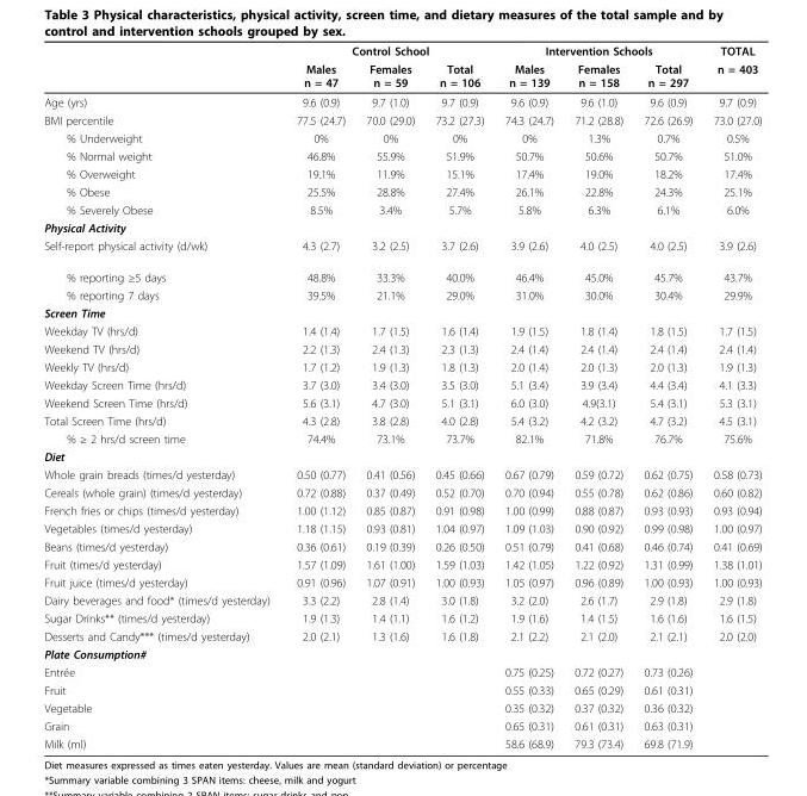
<table><thead><tr><td rowspan="2"></td><td colspan="3">Control School</td><td colspan="3">Intervention Schools</td><td rowspan="2">TOTAL n = 403</td></tr><tr><td>Males n = 47</td><td>Females n = 59</td><td>Total n = 106</td><td>Males n = 139</td><td>Females n = 158</td><td>Total n = 297</td></tr></thead><tbody><tr><td>Age (yrs)</td><td>9.6 (0.9)</td><td>9.7 (1.0)</td><td>9.7 (0.9)</td><td>9.6 (0.9)</td><td>9.6 (1.0)</td><td>9.6 (0.9)</td><td>9.7 (0.9)</td></tr><tr><td>BMI percentile</td><td>77.5 (24.7)</td><td>70.0 (29.0)</td><td>73.2 (27.3)</td><td>74.3 (24.7)</td><td>71.2 (28.8)</td><td>72.6 (26.9)</td><td>73.0 (27.0)</td></tr><tr><td>% Underweight</td><td>0%</td><td>0%</td><td>0%</td><td>0%</td><td>1.3%</td><td>0.7%</td><td>0.5%</td></tr><tr><td>% Normal weight</td><td>46.8%</td><td>55.9%</td><td>51.9%</td><td>50.7%</td><td>50.6%</td><td>50.7%</td><td>51.0%</td></tr><tr><td>% Overweight</td><td>19.1%</td><td>11.9%</td><td>15.1%</td><td>17.4%</td><td>19.0%</td><td>18.2%</td><td>17.4%</td></tr><tr><td>% Obese</td><td>25.5%</td><td>28.8%</td><td>27.4%</td><td>26.1%</td><td>22.8%</td><td>24.3%</td><td>25.1%</td></tr><tr><td>% Severely Obese</td><td>8.5%</td><td>3.4%</td><td>5.7%</td><td>5.8%</td><td>6.3%</td><td>6.1%</td><td>6.0%</td></tr><tr><td colspan="8">Physical Activity</td></tr><tr><td>Self-report physical activity (d/wk)</td><td>4.3 (2.7)</td><td>3.2 (2.5)</td><td>3.7 (2.6)</td><td>3.9 (2.6)</td><td>4.0 (2.5)</td><td>4.0 (2.5)</td><td>3.9 (2.6)</td></tr><tr><td>% reporting ≥5 days</td><td>48.8%</td><td>33.3%</td><td>40.0%</td><td>46.4%</td><td>45.0%</td><td>45.7%</td><td>43.7%</td></tr><tr><td>% reporting 7 days</td><td>39.5%</td><td>21.1%</td><td>29.0%</td><td>31.0%</td><td>30.0%</td><td>30.4%</td><td>29.9%</td></tr><tr><td colspan="8">Screen Time</td></tr><tr><td>Weekday TV (hrs/d)</td><td>1.4 (1.4)</td><td>1.7 (1.5)</td><td>1.6 (1.4)</td><td>1.9 (1.5)</td><td>1.8 (1.4)</td><td>1.8 (1.5)</td><td>1.7 (1.5)</td></tr><tr><td>Weekend TV (hrs/d)</td><td>2.2 (1.3)</td><td>2.4 (1.3)</td><td>2.3 (1.3)</td><td>2.4 (1.4)</td><td>2.4 (1.4)</td><td>2.4 (1.4)</td><td>2.4 (1.4)</td></tr><tr><td>Weekly TV (hrs/d)</td><td>1.7 (1.2)</td><td>1.9 (1.3)</td><td>1.8 (1.3)</td><td>2.0 (1.4)</td><td>2.0 (1.3)</td><td>2.0 (1.3)</td><td>1.9 (1.3)</td></tr><tr><td>Weekday Screen Time (hrs/d)</td><td>3.7 (3.0)</td><td>3.4 (3.0)</td><td>3.5 (3.0)</td><td>5.1 (3.4)</td><td>3.9 (3.4)</td><td>4.4 (3.4)</td><td>4.1 (3.3)</td></tr><tr><td>Weekend Screen Time (hrs/d)</td><td>5.6 (3.1)</td><td>4.7 (3.0)</td><td>5.1 (3.1)</td><td>6.0 (3.0)</td><td>4.9(3.1)</td><td>5.4 (3.1)</td><td>5.3 (3.1)</td></tr><tr><td>Total Screen Time (hrs/d)</td><td>4.3 (2.8)</td><td>3.8 (2.8)</td><td>4.0 (2.8)</td><td>5.4 (3.2)</td><td>4.2 (3.2)</td><td>4.7 (3.2)</td><td>4.5 (3.1)</td></tr><tr><td>% ≥ 2 hrs/d screen time</td><td>74.4%</td><td>73.1%</td><td>73.7%</td><td>82.1%</td><td>71.8%</td><td>76.7%</td><td>75.6%</td></tr><tr><td colspan="8">Diet</td></tr><tr><td>Whole grain breads (times/d yesterday)</td><td>0.50 (0.77)</td><td>0.41 (0.56)</td><td>0.45 (0.66)</td><td>0.67 (0.79)</td><td>0.59 (0.72)</td><td>0.62 (0.75)</td><td>0.58 (0.73)</td></tr><tr><td>Cereals (whole grain) (times/d yesterday)</td><td>0.72 (0.88)</td><td>0.37 (0.49)</td><td>0.52 (0.70)</td><td>0.70 (0.94)</td><td>0.55 (0.78)</td><td>0.62 (0.86)</td><td>0.60 (0.82)</td></tr><tr><td>French fries or chips (times/d yesterday)</td><td>1.00 (1.12)</td><td>0.85 (0.87)</td><td>0.91 (0.98)</td><td>1.00 (0.99)</td><td>0.88 (0.87)</td><td>0.93 (0.93)</td><td>0.93 (0.94)</td></tr><tr><td>Vegetables (times/d yesterday)</td><td>1.18 (1.15)</td><td>0.93 (0.81)</td><td>1.04 (0.97)</td><td>1.09 (1.03)</td><td>0.90 (0.92)</td><td>0.99 (0.98)</td><td>1.00 (0.97)</td></tr><tr><td>Beans (times/d yesterday)</td><td>0.36 (0.61)</td><td>0.19 (0.39)</td><td>0.26 (0.50)</td><td>0.51 (0.79)</td><td>0.41 (0.68)</td><td>0.46 (0.74)</td><td>0.41 (0.69)</td></tr><tr><td>Fruit (times/d yesterday)</td><td>1.57 (1.09)</td><td>1.61 (1.00)</td><td>1.59 (1.03)</td><td>1.42 (1.05)</td><td>1.22 (0.92)</td><td>1.31 (0.99)</td><td>1.38 (1.01)</td></tr><tr><td>Fruit juice (times/d yesterday)</td><td>0.91 (0.96)</td><td>1.07 (0.91)</td><td>1.00 (0.93)</td><td>1.05 (0.97)</td><td>0.96 (0.89)</td><td>1.00 (0.93)</td><td>1.00 (0.93)</td></tr><tr><td>Dairy beverages and food* (times/d yesterday)</td><td>3.3 (2.2)</td><td>2.8 (1.4)</td><td>3.0 (1.8)</td><td>3.2 (2.0)</td><td>2.6 (1.7)</td><td>2.9 (1.8)</td><td>2.9 (1.8)</td></tr><tr><td>Sugar Drinks** (times/d yesterday)</td><td>1.9 (1.3)</td><td>1.4 (1.1)</td><td>1.6 (1.2)</td><td>1.9 (1.6)</td><td>1.4 (1.5)</td><td>1.6 (1.6)</td><td>1.6 (1.5)</td></tr><tr><td>Desserts and Candy*** (times/d yesterday)</td><td>2.0 (2.1)</td><td>1.3 (1.6)</td><td>1.6 (1.8)</td><td>2.1 (2.2)</td><td>2.1 (2.0)</td><td>2.1 (2.1)</td><td>2.0 (2.0)</td></tr><tr><td colspan="8">Plate Consumption#</td></tr><tr><td>Entrée</td><td></td><td></td><td></td><td>0.75 (0.25)</td><td>0.72 (0.27)</td><td>0.73 (0.26)</td><td></td></tr><tr><td>Fruit</td><td></td><td></td><td></td><td>0.55 (0.33)</td><td>0.65 (0.29)</td><td>0.61 (0.31)</td><td></td></tr><tr><td>Vegetable</td><td></td><td></td><td></td><td>0.35 (0.32)</td><td>0.37 (0.32)</td><td>0.36 (0.32)</td><td></td></tr><tr><td>Grain</td><td></td><td></td><td></td><td>0.65 (0.31)</td><td>0.61 (0.31)</td><td>0.63 (0.31)</td><td></td></tr><tr><td>Milk (ml)</td><td></td><td></td><td></td><td>58.6 (68.9)</td><td>79.3 (73.4)</td><td>69.8 (71.9)</td><td></td></tr></tbody></table>